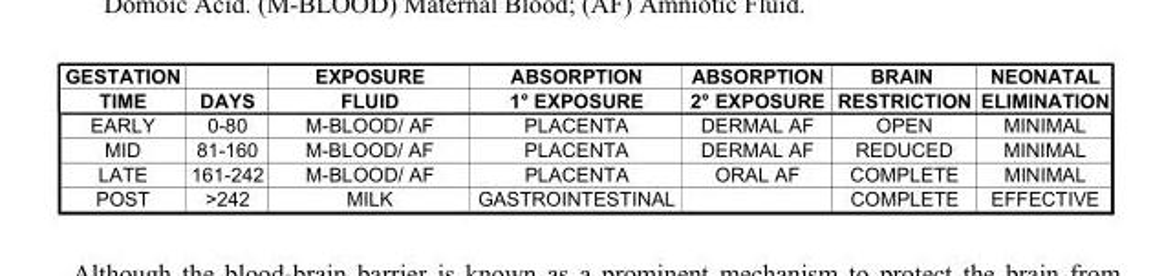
<table><thead><tr><td rowspan="2">GESTATION TIME</td><td rowspan="2">DAYS</td><td rowspan="2">EXPOSURE FLUID</td><td rowspan="2">ABSORPTION 1° EXPOSURE</td><td rowspan="2">ABSORPTION 2° EXPOSURE</td><td rowspan="2">BRAIN RESTRICTION</td><td rowspan="2">NEONATAL ELIMINATION</td></tr><tr></tr></thead><tbody><tr><td>EARLY</td><td>0-80</td><td>M-BLOOD/ AF</td><td>PLACENTA</td><td>DERMAL AF</td><td>OPEN</td><td>MINIMAL</td></tr><tr><td>MID</td><td>81-160</td><td>M-BLOOD/ AF</td><td>PLACENTA</td><td>DERMAL AF</td><td>REDUCED</td><td>MINIMAL</td></tr><tr><td>LATE</td><td>161-242</td><td>M-BLOOD/ AF</td><td>PLACENTA</td><td>ORAL AF</td><td>COMPLETE</td><td>MINIMAL</td></tr><tr><td>POST</td><td>&gt;242</td><td>MILK</td><td>GASTROINTESTINAL</td><td></td><td>COMPLETE</td><td>EFFECTIVE</td></tr></tbody></table>